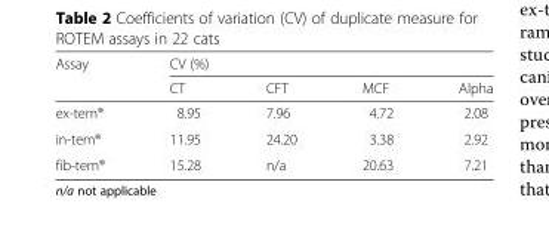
<table><thead><tr><td rowspan="2">Assay</td><td colspan="4">CV (%)</td></tr><tr><td>CT</td><td>CFT</td><td>MCF</td><td>Alpha</td></tr></thead><tbody><tr><td>ex-tem®</td><td>8.95</td><td>7.96</td><td>4.72</td><td>2.08</td></tr><tr><td>in-tem®</td><td>11.95</td><td>24.20</td><td>3.38</td><td>2.92</td></tr><tr><td>fib-tem®</td><td>15.28</td><td>n/a</td><td>20.63</td><td>7.21</td></tr></tbody></table>